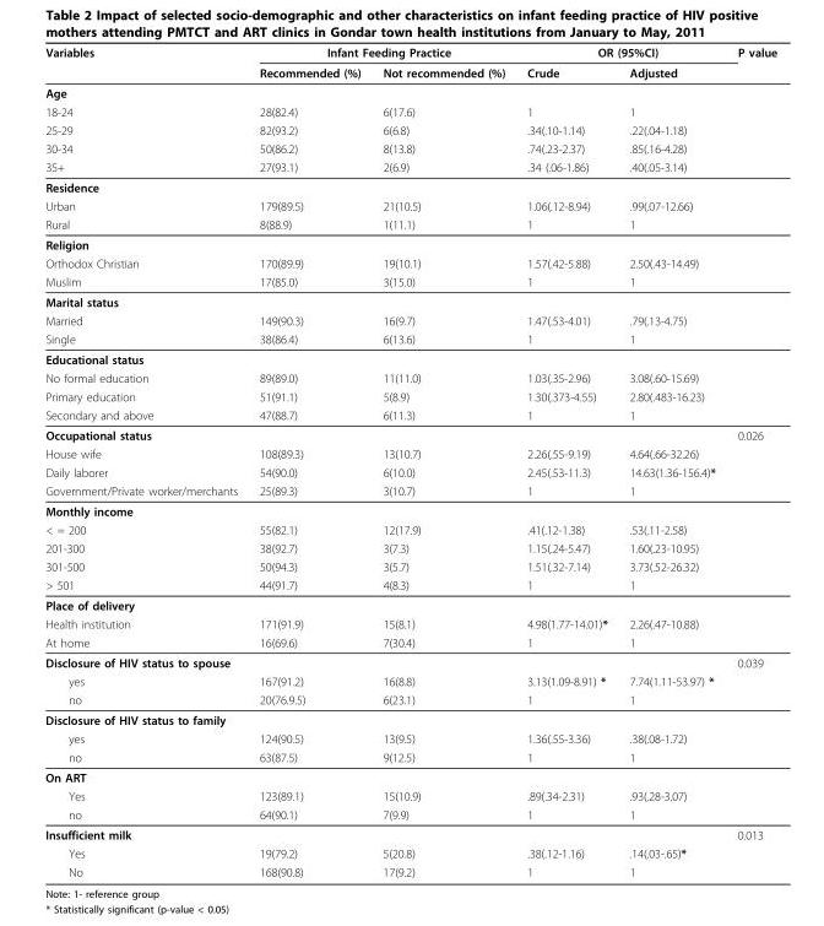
<table><thead><tr><td rowspan="2">Variables</td><td colspan="2">Infant Feeding Practice</td><td colspan="2">OR (95%CI)</td><td rowspan="2">P value</td></tr><tr><td>Recommended (%)</td><td>Not recommended (%)</td><td>Crude</td><td>Adjusted</td></tr></thead><tbody><tr><td colspan="6">Age</td></tr><tr><td>18-24</td><td>28(82.4)</td><td>6(17.6)</td><td>1</td><td>1</td><td></td></tr><tr><td>25-29</td><td>82(93.2)</td><td>6(6.8)</td><td>.34(.10-1.14)</td><td>.22(.04-1.18)</td><td></td></tr><tr><td>30-34</td><td>50(86.2)</td><td>8(13.8)</td><td>.74(.23-2.37)</td><td>.85(.16-4.28)</td><td></td></tr><tr><td>35+</td><td>27(93.1)</td><td>2(6.9)</td><td>.34 (.06-1.86)</td><td>.40(.05-3.14)</td><td></td></tr><tr><td colspan="6">Residence</td></tr><tr><td>Urban</td><td>179(89.5)</td><td>21(10.5)</td><td>1.06(.12-8.94)</td><td>.99(.07-12.66)</td><td></td></tr><tr><td>Rural</td><td>8(88.9)</td><td>1(11.1)</td><td>1</td><td>1</td><td></td></tr><tr><td colspan="6">Religion</td></tr><tr><td>Orthodox Christian</td><td>170(89.9)</td><td>19(10.1)</td><td>1.57(.42-5.88)</td><td>2.50(.43-14.49)</td><td></td></tr><tr><td>Muslim</td><td>17(85.0)</td><td>3(15.0)</td><td>1</td><td>1</td><td></td></tr><tr><td colspan="6">Marital status</td></tr><tr><td>Married</td><td>149(90.3)</td><td>16(9.7)</td><td>1.47(.53-4.01)</td><td>.79(.13-4.75)</td><td></td></tr><tr><td>Single</td><td>38(86.4)</td><td>6(13.6)</td><td>1</td><td>1</td><td></td></tr><tr><td colspan="6">Educational status</td></tr><tr><td>No formal education</td><td>89(89.0)</td><td>11(11.0)</td><td>1.03(.35-2.96)</td><td>3.08(.60-15.69)</td><td></td></tr><tr><td>Primary education</td><td>51(91.1)</td><td>5(8.9)</td><td>1.30(.373-4.55)</td><td>2.80(.483-16.23)</td><td></td></tr><tr><td>Secondary and above</td><td>47(88.7)</td><td>6(11.3)</td><td>1</td><td>1</td><td></td></tr><tr><td>Occupational status</td><td></td><td></td><td></td><td></td><td>0.026</td></tr><tr><td>House wife</td><td>108(89.3)</td><td>13(10.7)</td><td>2.26(.55-9.19)</td><td>4.64(.66-32.26)</td><td></td></tr><tr><td>Daily laborer</td><td>54(90.0)</td><td>6(10.0)</td><td>2.45(.53-11.3)</td><td>14.63(1.36-156.4)*</td><td></td></tr><tr><td>Government/Private worker/merchants</td><td>25(89.3)</td><td>3(10.7)</td><td>1</td><td>1</td><td></td></tr><tr><td colspan="6">Monthly income</td></tr><tr><td>&lt; = 200</td><td>55(82.1)</td><td>12(17.9)</td><td>.41(.12-1.38)</td><td>.53(.11-2.58)</td><td></td></tr><tr><td>201-300</td><td>38(92.7)</td><td>3(7.3)</td><td>1.15(.24-5.47)</td><td>1.60(.23-10.95)</td><td></td></tr><tr><td>301-500</td><td>50(94.3)</td><td>3(5.7)</td><td>1.51(.32-7.14)</td><td>3.73(.52-26.32)</td><td></td></tr><tr><td>&gt; 501</td><td>44(91.7)</td><td>4(8.3)</td><td>1</td><td>1</td><td></td></tr><tr><td colspan="6">Place of delivery</td></tr><tr><td>Health institution</td><td>171(91.9)</td><td>15(8.1)</td><td>4.98(1.77-14.01)*</td><td>2.26(.47-10.88)</td><td></td></tr><tr><td>At home</td><td>16(69.6)</td><td>7(30.4)</td><td>1</td><td>1</td><td></td></tr><tr><td>Disclosure of HIV status to spouse</td><td></td><td></td><td></td><td></td><td>0.039</td></tr><tr><td>yes</td><td>167(91.2)</td><td>16(8.8)</td><td>3.13(1.09-8.91) *</td><td>7.74(1.11-53.97) *</td><td></td></tr><tr><td>no</td><td>20(76.9.5)</td><td>6(23.1)</td><td>1</td><td>1</td><td></td></tr><tr><td colspan="6">Disclosure of HIV status to family</td></tr><tr><td>yes</td><td>124(90.5)</td><td>13(9.5)</td><td>1.36(.55-3.36)</td><td>.38(.08-1.72)</td><td></td></tr><tr><td>no</td><td>63(87.5)</td><td>9(12.5)</td><td>1</td><td>1</td><td></td></tr><tr><td colspan="6">On ART</td></tr><tr><td>Yes</td><td>123(89.1)</td><td>15(10.9)</td><td>.89(.34-2.31)</td><td>.93(.28-3.07)</td><td></td></tr><tr><td>no</td><td>64(90.1)</td><td>7(9.9)</td><td>1</td><td>1</td><td></td></tr><tr><td>Insufficient milk</td><td></td><td></td><td></td><td></td><td>0.013</td></tr><tr><td>Yes</td><td>19(79.2)</td><td>5(20.8)</td><td>.38(.12-1.16)</td><td>.14(.03-.65)*</td><td></td></tr><tr><td>No</td><td>168(90.8)</td><td>17(9.2)</td><td>1</td><td>1</td><td></td></tr></tbody></table>